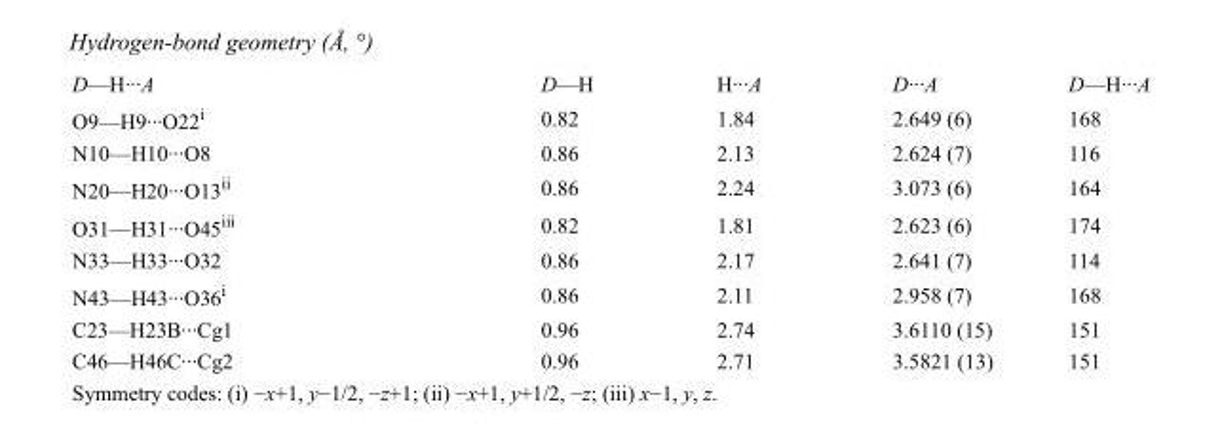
<table><tbody><tr><td>D—H···A</td><td>D—H</td><td>H···A</td><td>D···A</td><td>D—H···A</td></tr><tr><td>O9—H9···O22<sup>i</sup></td><td>0.82</td><td>1.84</td><td>2.649 (6)</td><td>168</td></tr><tr><td>N10—H10···O8</td><td>0.86</td><td>2.13</td><td>2.624 (7)</td><td>116</td></tr><tr><td>N20—H20···O13<sup>ii</sup></td><td>0.86</td><td>2.24</td><td>3.073 (6)</td><td>164</td></tr><tr><td>O31—H31···O45<sup>iii</sup></td><td>0.82</td><td>1.81</td><td>2.623 (6)</td><td>174</td></tr><tr><td>N33—H33···O32</td><td>0.86</td><td>2.17</td><td>2.641 (7)</td><td>114</td></tr><tr><td>N43—H43···O36<sup>i</sup></td><td>0.86</td><td>2.11</td><td>2.958 (7)</td><td>168</td></tr><tr><td>C23—H23B···Cg1</td><td>0.96</td><td>2.74</td><td>3.6110 (15)</td><td>151</td></tr><tr><td>C46—H46C···Cg2</td><td>0.96</td><td>2.71</td><td>3.5821 (13)</td><td>151</td></tr></tbody></table>